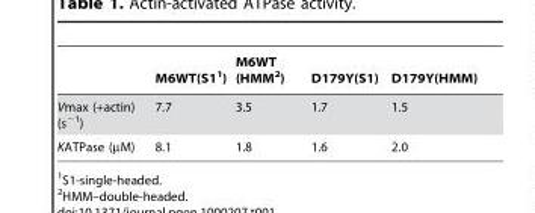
<table><thead><tr><td></td><td>M6WT(S1<sup>1</sup>)</td><td>M6WT (HMM<sup>2</sup>)</td><td>D179Y(S1)</td><td>D179Y(HMM)</td></tr></thead><tbody><tr><td>Vmax (+actin) (s<sup>−1</sup>)</td><td>7.7</td><td>3.5</td><td>1.7</td><td>1.5</td></tr><tr><td>KATPase (µM)</td><td>8.1</td><td>1.8</td><td>1.6</td><td>2.0</td></tr></tbody></table>